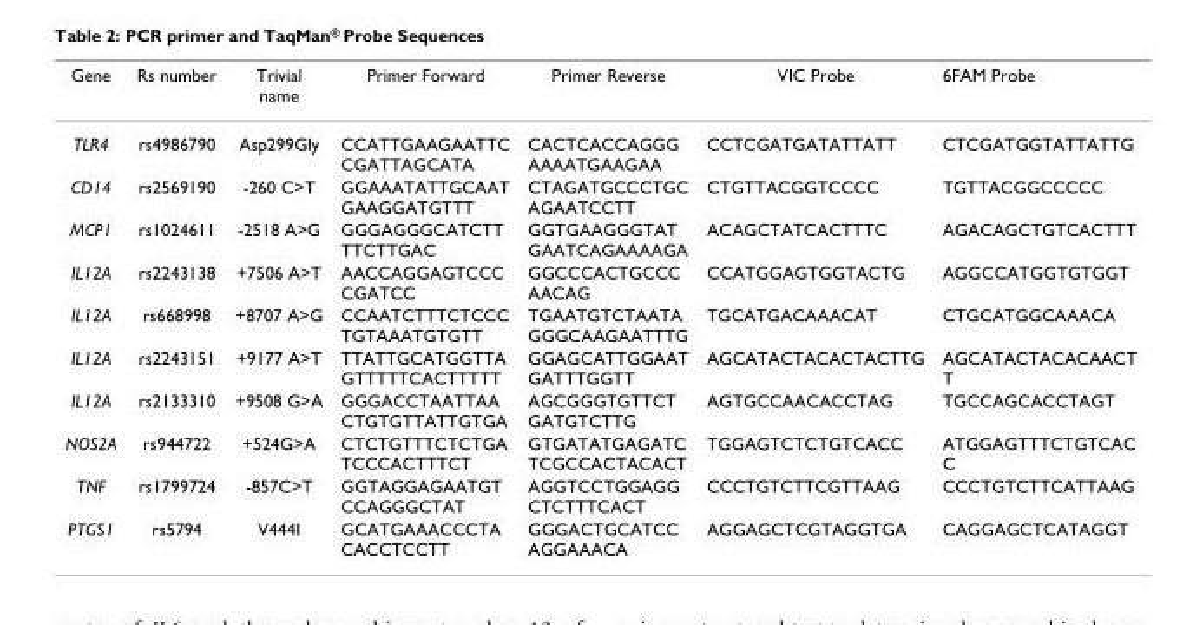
<table><thead><tr><td>Gene</td><td>Rs number</td><td>Trivial name</td><td>Primer Forward</td><td>Primer Reverse</td><td>VIC Probe</td><td>6FAM Probe</td></tr></thead><tbody><tr><td>TLR4</td><td>rs4986790</td><td>Asp299Gly</td><td>CCATTGAAGAATTC CGATTAGCATA</td><td>CACTCACCAGGG AAAATGAAGAA</td><td>CCTCGATGATATTATT</td><td>CTCGATGGTATTATTG</td></tr><tr><td>CD14</td><td>rs2569190</td><td>-260 C&gt;T</td><td>GGAAATATTGCAAT GAAGGATGTTT</td><td>CTAGATGCCCTGC AGAATCCTT</td><td>CTGTTACGGTCCCC</td><td>TGTTACGGCCCCC</td></tr><tr><td>MCP1</td><td>rs1024611</td><td>-2518 A&gt;G</td><td>GGGAGGGCATCTT TTCTTGAC</td><td>GGTGAAGGGTAT GAATCAGAAAAGA</td><td>ACAGCTATCACTTTC</td><td>AGACAGCTGTCACTTT</td></tr><tr><td>IL12A</td><td>rs2243138</td><td>+7506 A&gt;T</td><td>AACCAGGAGTCCC CGATCC</td><td>GGCCCACTGCCC AACAG</td><td>CCATGGAGTGGTACTG</td><td>AGGCCATGGTGTGGT</td></tr><tr><td>IL12A</td><td>rs668998</td><td>+8707 A&gt;G</td><td>CCAATCTTTCTCCC TGTAAATGTGTT</td><td>TGAATGTCTAATA GGGCAAGAATTTG</td><td>TGCATGACAAACAT</td><td>CTGCATGGCAAACA</td></tr><tr><td>IL12A</td><td>rs2243151</td><td>+9177 A&gt;T</td><td>TTATTGCATGGTTA GTTTTTCACTTTTT</td><td>GGAGCATTGGAAT GATTTGGTT</td><td>AGCATACTACACTACTTG</td><td>AGCATACTACACAACT T</td></tr><tr><td>IL12A</td><td>rs2133310</td><td>+9508 G&gt;A</td><td>GGGACCTAATTAA CTGTGTTATTGTGA</td><td>AGCGGGTGTTCT GATGTCTTG</td><td>AGTGCCAACACCTAG</td><td>TGCCAGCACCTAGT</td></tr><tr><td>NOS2A</td><td>rs944722</td><td>+524G&gt;A</td><td>CTCTGTTTCTCTGA TCCCACTTTCT</td><td>GTGATATGAGATC TCGCCACTACACT</td><td>TGGAGTCTCTGTCACC</td><td>ATGGAGTTTCTGTCAC C</td></tr><tr><td>TNF</td><td>rs1799724</td><td>-857C&gt;T</td><td>GGTAGGAGAATGT CCAGGGCTAT</td><td>AGGTCCTGGAGG CTCTTTCACT</td><td>CCCTGTCTTCGTTAAG</td><td>CCCTGTCTTCATTAAG</td></tr><tr><td>PTGS1</td><td>rs5794</td><td>V444I</td><td>GCATGAAACCCTA CACCTCCTT</td><td>GGGACTGCATCC AGGAAACA</td><td>AGGAGCTCGTAGGTGA</td><td>CAGGAGCTCATAGGT</td></tr></tbody></table>